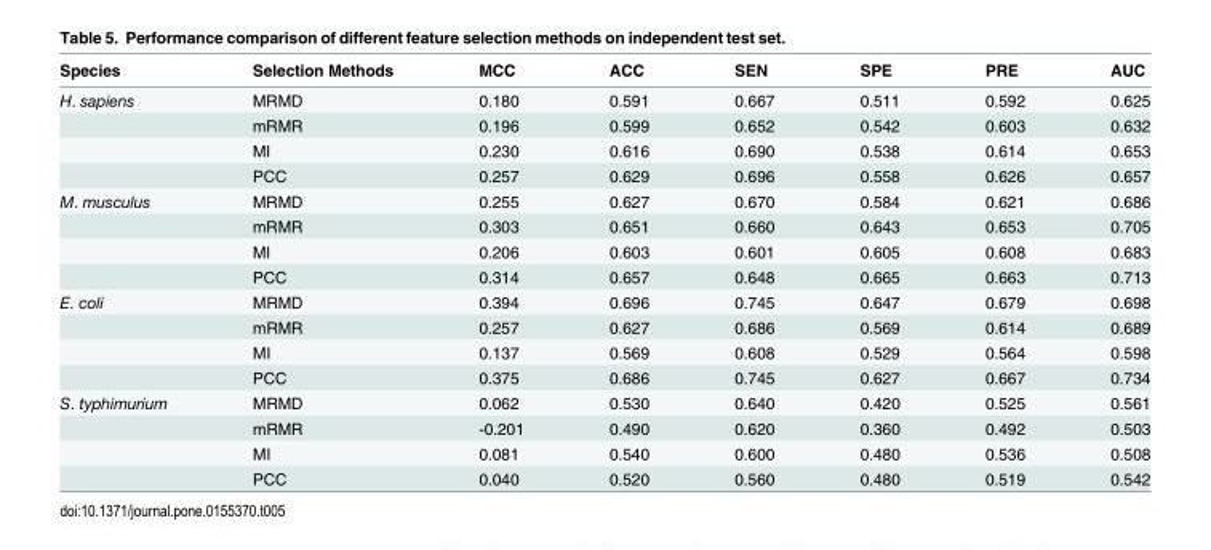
<table><thead><tr><td>Species</td><td>Selection Methods</td><td>MCC</td><td>ACC</td><td>SEN</td><td>SPE</td><td>PRE</td><td>AUC</td></tr></thead><tbody><tr><td rowspan="4">H. sapiens</td><td>MRMD</td><td>0.180</td><td>0.591</td><td>0.667</td><td>0.511</td><td>0.592</td><td>0.625</td></tr><tr><td>mRMR</td><td>0.196</td><td>0.599</td><td>0.652</td><td>0.542</td><td>0.603</td><td>0.632</td></tr><tr><td>MI</td><td>0.230</td><td>0.616</td><td>0.690</td><td>0.538</td><td>0.614</td><td>0.653</td></tr><tr><td>PCC</td><td>0.257</td><td>0.629</td><td>0.696</td><td>0.558</td><td>0.626</td><td>0.657</td></tr><tr><td rowspan="4">M. musculus</td><td>MRMD</td><td>0.255</td><td>0.627</td><td>0.670</td><td>0.584</td><td>0.621</td><td>0.686</td></tr><tr><td>mRMR</td><td>0.303</td><td>0.651</td><td>0.660</td><td>0.643</td><td>0.653</td><td>0.705</td></tr><tr><td>MI</td><td>0.206</td><td>0.603</td><td>0.601</td><td>0.605</td><td>0.608</td><td>0.683</td></tr><tr><td>PCC</td><td>0.314</td><td>0.657</td><td>0.648</td><td>0.665</td><td>0.663</td><td>0.713</td></tr><tr><td rowspan="4">E. coli</td><td>MRMD</td><td>0.394</td><td>0.696</td><td>0.745</td><td>0.647</td><td>0.679</td><td>0.698</td></tr><tr><td>mRMR</td><td>0.257</td><td>0.627</td><td>0.686</td><td>0.569</td><td>0.614</td><td>0.689</td></tr><tr><td>MI</td><td>0.137</td><td>0.569</td><td>0.608</td><td>0.529</td><td>0.564</td><td>0.598</td></tr><tr><td>PCC</td><td>0.375</td><td>0.686</td><td>0.745</td><td>0.627</td><td>0.667</td><td>0.734</td></tr><tr><td rowspan="4">S. typhimurium</td><td>MRMD</td><td>0.062</td><td>0.530</td><td>0.640</td><td>0.420</td><td>0.525</td><td>0.561</td></tr><tr><td>mRMR</td><td>-0.201</td><td>0.490</td><td>0.620</td><td>0.360</td><td>0.492</td><td>0.503</td></tr><tr><td>MI</td><td>0.081</td><td>0.540</td><td>0.600</td><td>0.480</td><td>0.536</td><td>0.508</td></tr><tr><td>PCC</td><td>0.040</td><td>0.520</td><td>0.560</td><td>0.480</td><td>0.519</td><td>0.542</td></tr></tbody></table>